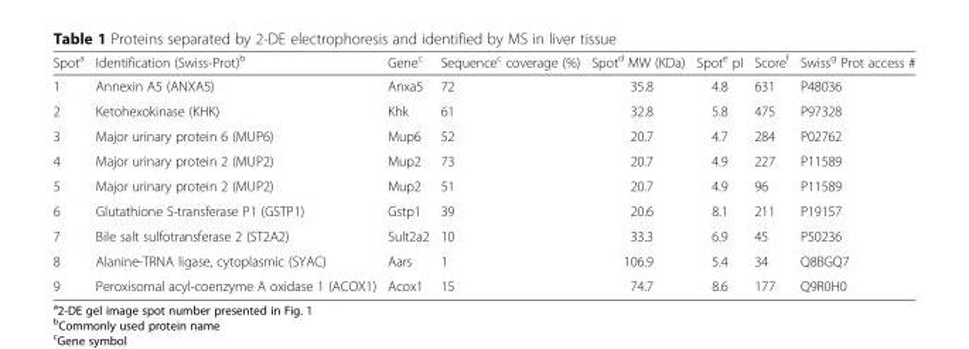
<table><thead><tr><td>Spot<sup>a</sup></td><td>Identification (Swiss-Prot)<sup>b</sup></td><td>Gene<sup>c</sup></td><td>Sequence<sup>c</sup> coverage (%)</td><td>Spot<sup>d</sup> MW (KDa)</td><td>Spot<sup>e</sup> pI</td><td>Score<sup>f</sup></td><td>Swiss<sup>g</sup> Prot access #</td></tr></thead><tbody><tr><td>1</td><td>Annexin A5 (ANXA5)</td><td>Anxa5</td><td>72</td><td>35.8</td><td>4.8</td><td>631</td><td>P48036</td></tr><tr><td>2</td><td>Ketohexokinase (KHK)</td><td>Khk</td><td>61</td><td>32.8</td><td>5.8</td><td>475</td><td>P97328</td></tr><tr><td>3</td><td>Major urinary protein 6 (MUP6)</td><td>Mup6</td><td>52</td><td>20.7</td><td>4.7</td><td>284</td><td>P02762</td></tr><tr><td>4</td><td>Major urinary protein 2 (MUP2)</td><td>Mup2</td><td>73</td><td>20.7</td><td>4.9</td><td>227</td><td>P11589</td></tr><tr><td>5</td><td>Major urinary protein 2 (MUP2)</td><td>Mup2</td><td>51</td><td>20.7</td><td>4.9</td><td>96</td><td>P11589</td></tr><tr><td>6</td><td>Glutathione S-transferase P1 (GSTP1)</td><td>Gstp1</td><td>39</td><td>20.6</td><td>8.1</td><td>211</td><td>P19157</td></tr><tr><td>7</td><td>Bile salt sulfotransferase 2 (ST2A2)</td><td>Sult2a2</td><td>10</td><td>33.3</td><td>6.9</td><td>45</td><td>P50236</td></tr><tr><td>8</td><td>Alanine-TRNA ligase, cytoplasmic (SYAC)</td><td>Aars</td><td>1</td><td>106.9</td><td>5.4</td><td>34</td><td>Q8BGQ7</td></tr><tr><td>9</td><td>Peroxisomal acyl-coenzyme A oxidase 1 (ACOX1)</td><td>Acox1</td><td>15</td><td>74.7</td><td>8.6</td><td>177</td><td>Q9R0H0</td></tr></tbody></table>